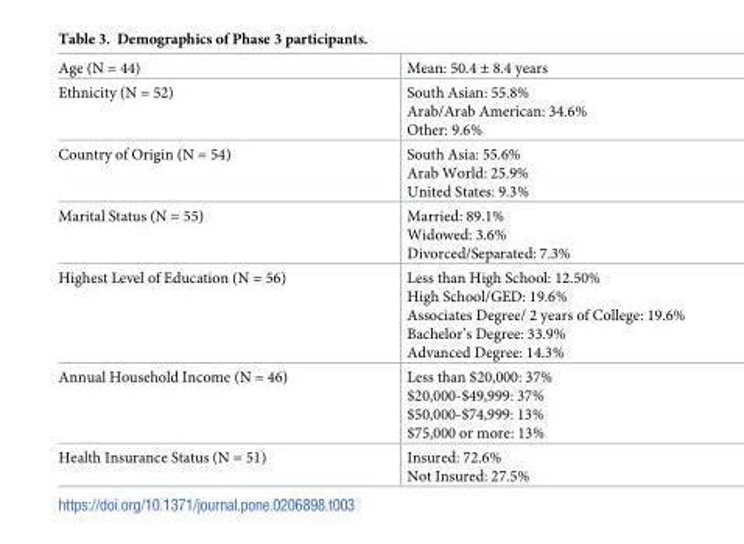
<table><tbody><tr><td>Age (N = 44)</td><td>Mean: 50.4 ± 8.4 years</td></tr><tr><td>Ethnicity (N = 52)</td><td>South Asian: 55.8% Arab/Arab American: 34.6% Other: 9.6%</td></tr><tr><td>Country of Origin (N = 54)</td><td>South Asia: 55.6% Arab World: 25.9% United States: 9.3%</td></tr><tr><td>Marital Status (N = 55)</td><td>Married: 89.1% Widowed: 3.6% Divorced/Separated: 7.3%</td></tr><tr><td>Highest Level of Education (N = 56)</td><td>Less than High School: 12.50% High School/GED: 19.6% Associates Degree/ 2 years of College: 19.6% Bachelor’s Degree: 33.9% Advanced Degree: 14.3%</td></tr><tr><td>Annual Household Income (N = 46)</td><td>Less than $20,000: 37% $20,000-$49,999: 37% $50,000-$74,999: 13% $75,000 or more: 13%</td></tr><tr><td>Health Insurance Status (N = 51)</td><td>Insured: 72.6% Not Insured: 27.5%</td></tr></tbody></table>